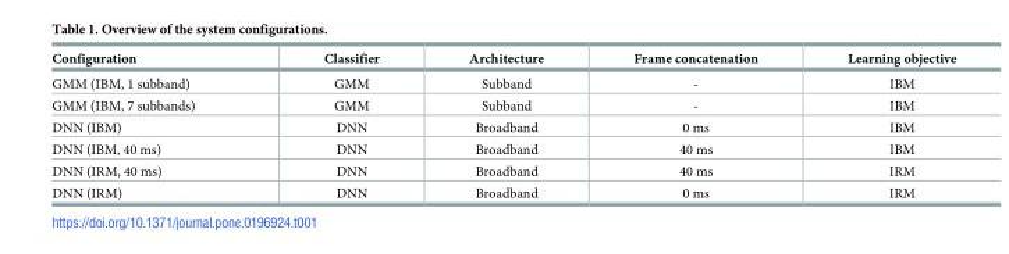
<table><thead><tr><td>Configuration</td><td>Classifier</td><td>Architecture</td><td>Frame concatenation</td><td>Learning objective</td></tr></thead><tbody><tr><td>GMM (IBM, 1 subband)</td><td>GMM</td><td>Subband</td><td>-</td><td>IBM</td></tr><tr><td>GMM (IBM, 7 subbands)</td><td>GMM</td><td>Subband</td><td>-</td><td>IBM</td></tr><tr><td>DNN (IBM)</td><td>DNN</td><td>Broadband</td><td>0 ms</td><td>IBM</td></tr><tr><td>DNN (IBM, 40 ms)</td><td>DNN</td><td>Broadband</td><td>40 ms</td><td>IBM</td></tr><tr><td>DNN (IRM, 40 ms)</td><td>DNN</td><td>Broadband</td><td>40 ms</td><td>IRM</td></tr><tr><td>DNN (IRM)</td><td>DNN</td><td>Broadband</td><td>0 ms</td><td>IRM</td></tr></tbody></table>